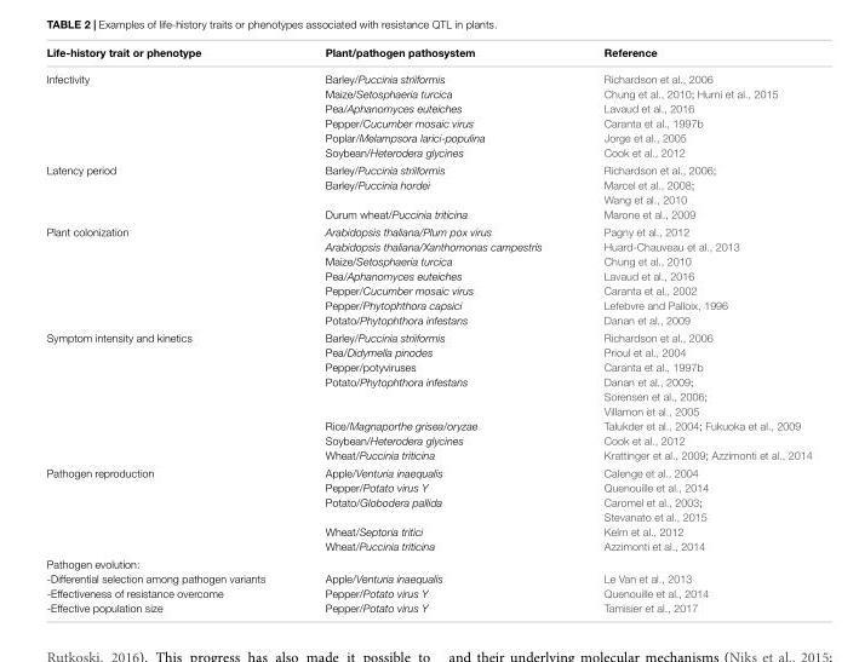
<table><thead><tr><td>Life-history trait or phenotype</td><td>Plant/pathogen pathosystem</td><td>Reference</td></tr></thead><tbody><tr><td>Infectivity</td><td>Barley/Puccinia striiformis Maize/Setosphaeria turcica Pea/Aphanomyces euteiches Pepper/Cucumber mosaic virus Poplar/Melampsora larici-populina Soybean/Heterodera glycines</td><td>Richardson et al., 2006 Chung et al., 2010; Hurni et al., 2015 Lavaud et al., 2016 Caranta et al., 1997b Jorge et al., 2005 Cook et al., 2012</td></tr><tr><td>Latency period</td><td>Barley/Puccinia striiformis Barley/Puccinia hordei Durum wheat/Puccinia triticina</td><td>Richardson et al., 2006; Marcel et al., 2008; Wang et al., 2010 Marone et al., 2009</td></tr><tr><td>Plant colonization</td><td>Arabidopsis thaliana/Plum pox virus Arabidopsis thaliana/Xanthomonas campestris Maize/Setosphaeria turcica Pea/Aphanomyces euteiches Pepper/Cucumber mosaic virus Pepper/Phytophthora capsici Potato/Phytophthora infestans</td><td>Pagny et al., 2012 Huard-Chauveau et al., 2013 Chung et al., 2010 Lavaud et al., 2016 Caranta et al., 2002 Lefebvre and Palloix, 1996 Danan et al., 2009</td></tr><tr><td>Symptom intensity and kinetics</td><td>Barley/Puccinia striiformis Pea/Didymella pinodes Pepper/potyviruses Potato/Phytophthora infestans Rice/Magnaporthe grisea/oryzae Soybean/Heterodera glycines Wheat/Puccinia triticina</td><td>Richardson et al., 2006 Prioul et al., 2004 Caranta et al., 1997b Danan et al., 2009; Sorensen et al., 2006; Villamon et al., 2005 Talukder et al., 2004; Fukuoka et al., 2009 Cook et al., 2012 Krattinger et al., 2009; Azzimonti et al., 2014</td></tr><tr><td>Pathogen reproduction</td><td>Apple/Venturia inaequalis Pepper/Potato virus Y Potato/Globodera pallida Wheat/Septoria tritici Wheat/Puccinia triticina</td><td>Calenge et al., 2004 Quenouille et al., 2014 Caromel et al., 2003; Stevanato et al., 2015 Kelm et al., 2012 Azzimonti et al., 2014</td></tr><tr><td>Pathogen evolution: -Differential selection among pathogen variants -Effectiveness of resistance overcome -Effective population size</td><td>Apple/Venturia inaequalis Pepper/Potato virus Y Pepper/Potato virus Y</td><td>Le Van et al., 2013 Quenouille et al., 2014 Tamisier et al., 2017</td></tr></tbody></table>